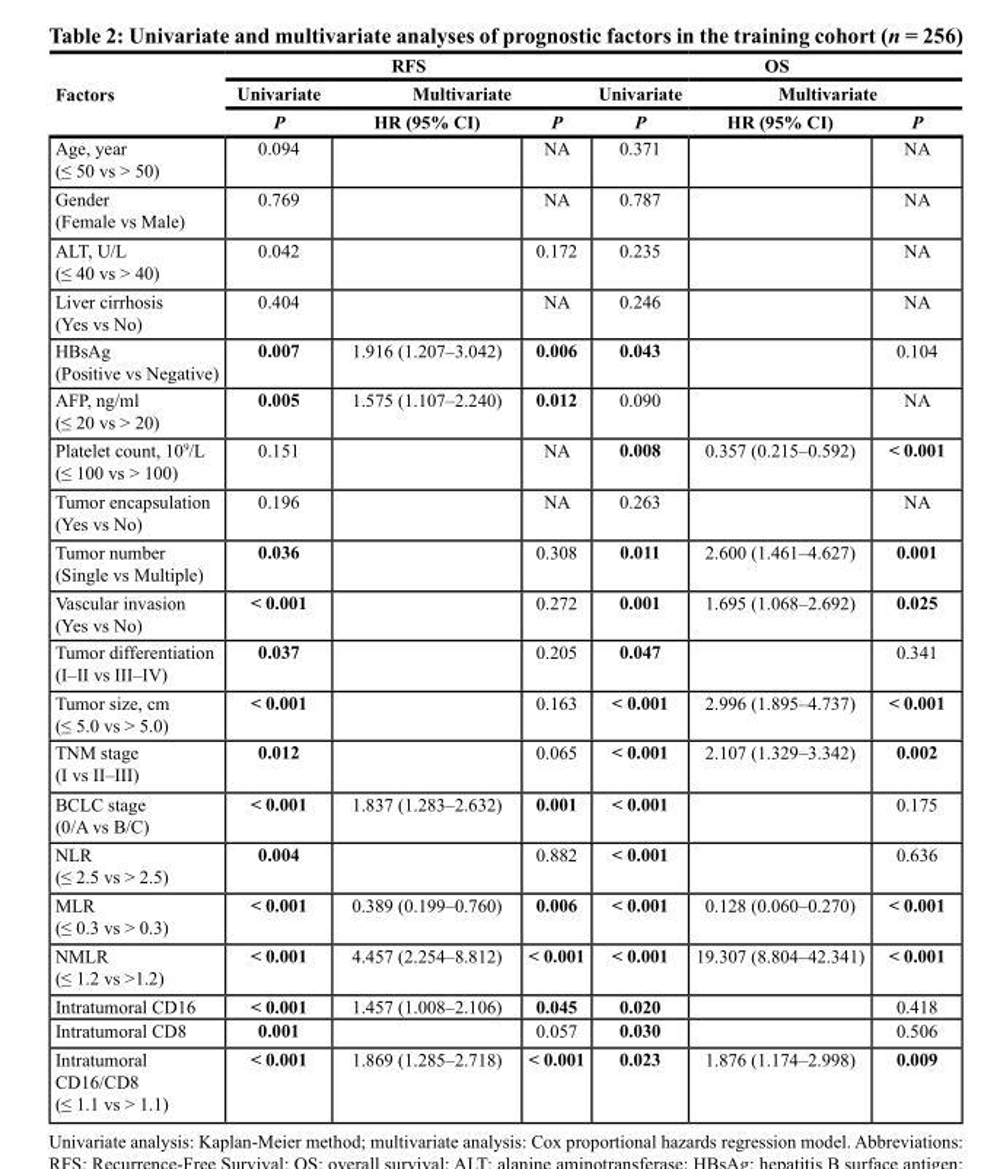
<table><thead><tr><td rowspan="3">Factors</td><td colspan="3">RFS</td><td colspan="3">OS</td></tr><tr><td rowspan="2">Univariate P</td><td colspan="2">Multivariate</td><td rowspan="2">Univariate P</td><td colspan="2">Multivariate</td></tr><tr><td>HR (95% CI)</td><td>P</td><td>HR (95% CI)</td><td>P</td></tr></thead><tbody><tr><td>Age, year (≤ 50 vs &gt; 50)</td><td>0.094</td><td></td><td>NA</td><td>0.371</td><td></td><td>NA</td></tr><tr><td>Gender (Female vs Male)</td><td>0.769</td><td></td><td>NA</td><td>0.787</td><td></td><td>NA</td></tr><tr><td>ALT, U/L (≤ 40 vs &gt; 40)</td><td>0.042</td><td></td><td>0.172</td><td>0.235</td><td></td><td>NA</td></tr><tr><td>Liver cirrhosis (Yes vs No)</td><td>0.404</td><td></td><td>NA</td><td>0.246</td><td></td><td>NA</td></tr><tr><td>HBsAg (Positive vs Negative)</td><td>0.007</td><td>1.916 (1.207–3.042)</td><td>0.006</td><td>0.043</td><td></td><td>0.104</td></tr><tr><td>AFP, ng/ml (≤ 20 vs &gt; 20)</td><td>0.005</td><td>1.575 (1.107–2.240)</td><td>0.012</td><td>0.090</td><td></td><td>NA</td></tr><tr><td>Platelet count, 10<sup>9</sup>/L (≤ 100 vs &gt; 100)</td><td>0.151</td><td></td><td>NA</td><td>0.008</td><td>0.357 (0.215–0.592)</td><td>&lt; 0.001</td></tr><tr><td>Tumor encapsulation (Yes vs No)</td><td>0.196</td><td></td><td>NA</td><td>0.263</td><td></td><td>NA</td></tr><tr><td>Tumor number (Single vs Multiple)</td><td>0.036</td><td></td><td>0.308</td><td>0.011</td><td>2.600 (1.461–4.627)</td><td>0.001</td></tr><tr><td>Vascular invasion (Yes vs No)</td><td>&lt; 0.001</td><td></td><td>0.272</td><td>0.001</td><td>1.695 (1.068–2.692)</td><td>0.025</td></tr><tr><td>Tumor differentiation (I–II vs III–IV)</td><td>0.037</td><td></td><td>0.205</td><td>0.047</td><td></td><td>0.341</td></tr><tr><td>Tumor size, cm (≤ 5.0 vs &gt; 5.0)</td><td>&lt; 0.001</td><td></td><td>0.163</td><td>&lt; 0.001</td><td>2.996 (1.895–4.737)</td><td>&lt; 0.001</td></tr><tr><td>TNM stage (I vs II–III)</td><td>0.012</td><td></td><td>0.065</td><td>&lt; 0.001</td><td>2.107 (1.329–3.342)</td><td>0.002</td></tr><tr><td>BCLC stage (0/A vs B/C)</td><td>&lt; 0.001</td><td>1.837 (1.283–2.632)</td><td>0.001</td><td>&lt; 0.001</td><td></td><td>0.175</td></tr><tr><td>NLR (≤ 2.5 vs &gt; 2.5)</td><td>0.004</td><td></td><td>0.882</td><td>&lt; 0.001</td><td></td><td>0.636</td></tr><tr><td>MLR (≤ 0.3 vs &gt; 0.3)</td><td>&lt; 0.001</td><td>0.389 (0.199–0.760)</td><td>0.006</td><td>&lt; 0.001</td><td>0.128 (0.060–0.270)</td><td>&lt; 0.001</td></tr><tr><td>NMLR (≤ 1.2 vs &gt;1.2)</td><td>&lt; 0.001</td><td>4.457 (2.254–8.812)</td><td>&lt; 0.001</td><td>&lt; 0.001</td><td>19.307 (8.804–42.341)</td><td>&lt; 0.001</td></tr><tr><td>Intratumoral CD16</td><td>&lt; 0.001</td><td>1.457 (1.008–2.106)</td><td>0.045</td><td>0.020</td><td></td><td>0.418</td></tr><tr><td>Intratumoral CD8</td><td>0.001</td><td></td><td>0.057</td><td>0.030</td><td></td><td>0.506</td></tr><tr><td>Intratumoral CD16/CD8 (≤ 1.1 vs &gt; 1.1)</td><td>&lt; 0.001</td><td>1.869 (1.285–2.718)</td><td>&lt; 0.001</td><td>0.023</td><td>1.876 (1.174–2.998)</td><td>0.009</td></tr></tbody></table>